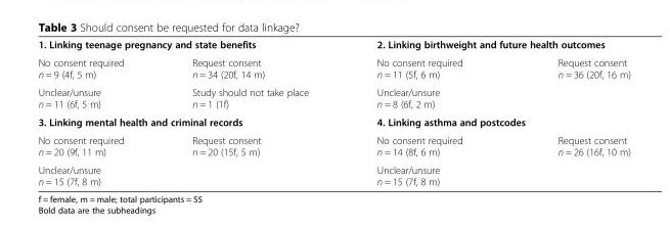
<table><tbody><tr><td colspan="2">1. Linking teenage pregnancy and state benefits</td><td colspan="2">2. Linking birthweight and future health outcomes</td></tr><tr><td>No consent required n = 9 (4f, 5 m)</td><td>Request consent n = 34 (20f, 14 m)</td><td>No consent required n = 11 (5f, 6 m)</td><td>Request consent n = 36 (20f, 16 m)</td></tr><tr><td>Unclear/unsure n = 11 (6f, 5 m)</td><td>Study should not take place n = 1 (1f)</td><td colspan="2">Unclear/unsure n = 8 (6f, 2 m)</td></tr><tr><td colspan="2">3. Linking mental health and criminal records</td><td colspan="2">4. Linking asthma and postcodes</td></tr><tr><td>No consent required n = 20 (9f, 11 m)</td><td>Request consent n = 20 (15f, 5 m)</td><td>No consent required n = 14 (8f, 6 m)</td><td>Request consent n = 26 (16f, 10 m)</td></tr><tr><td colspan="2">Unclear/unsure n = 15 (7f, 8 m)</td><td colspan="2">Unclear/unsure n = 15 (7f, 8 m)</td></tr></tbody></table>